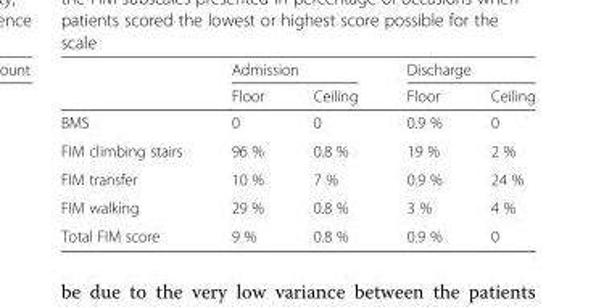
<table><thead><tr><td rowspan="2"></td><td colspan="2">Admission</td><td colspan="2">Discharge</td></tr><tr><td>Floor</td><td>Ceiling</td><td>Floor</td><td>Ceiling</td></tr></thead><tbody><tr><td>BMS</td><td>0</td><td>0</td><td>0.9 %</td><td>0</td></tr><tr><td>FIM climbing stairs</td><td>96 %</td><td>0.8 %</td><td>19 %</td><td>2 %</td></tr><tr><td>FIM transfer</td><td>10 %</td><td>7 %</td><td>0.9 %</td><td>24 %</td></tr><tr><td>FIM walking</td><td>29 %</td><td>0.8 %</td><td>3 %</td><td>4 %</td></tr><tr><td>Total FIM score</td><td>9 %</td><td>0.8 %</td><td>0.9 %</td><td>0</td></tr></tbody></table>